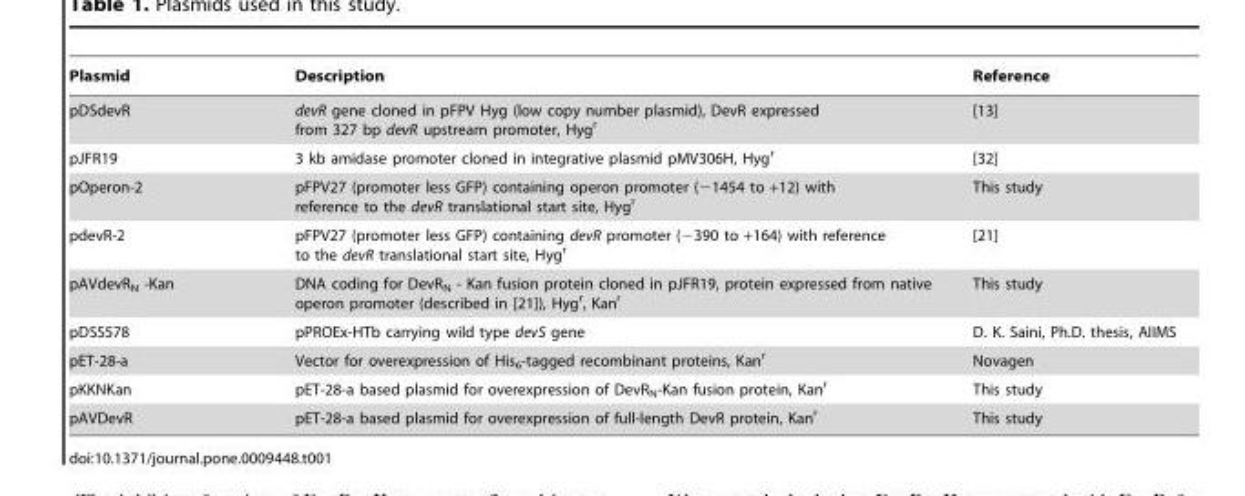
<table><thead><tr><td>Plasmid</td><td>Description</td><td>Reference</td></tr></thead><tbody><tr><td>pDSdevR</td><td>devR gene cloned in pFPV Hyg (low copy number plasmid), DevR expressed from 327 bp devR upstream promoter, Hyg<sup>r</sup></td><td>[13]</td></tr><tr><td>pJFR19</td><td>3 kb amidase promoter cloned in integrative plasmid pMV306H, Hyg<sup>r</sup></td><td>[32]</td></tr><tr><td>pOperon-2</td><td>pFPV27 (promoter less GFP) containing operon promoter (−1454 to +12) with reference to the devR translational start site, Hyg<sup>r</sup></td><td>This study</td></tr><tr><td>pdevR-2</td><td>pFPV27 (promoter less GFP) containing devR promoter (−390 to +164) with reference to the devR translational start site, Hyg<sup>r</sup></td><td>[21]</td></tr><tr><td>pAVdevR<sub>N</sub> -Kan</td><td>DNA coding for DevR<sub>N</sub> - Kan fusion protein cloned in pJFR19, protein expressed from native operon promoter (described in [21]), Hyg<sup>r</sup>, Kan<sup>r</sup></td><td>This study</td></tr><tr><td>pDSS578</td><td>pPROEx-HTb carrying wild type devS gene</td><td>D. K. Saini, Ph.D. thesis, AIIMS</td></tr><tr><td>pET-28-a</td><td>Vector for overexpression of His<sub>6</sub>-tagged recombinant proteins, Kan<sup>r</sup></td><td>Novagen</td></tr><tr><td>pKKNKan</td><td>pET-28-a based plasmid for overexpression of DevR<sub>N</sub>-Kan fusion protein, Kan<sup>r</sup></td><td>This study</td></tr><tr><td>pAVDevR</td><td>pET-28-a based plasmid for overexpression of full-length DevR protein, Kan<sup>r</sup></td><td>This study</td></tr></tbody></table>